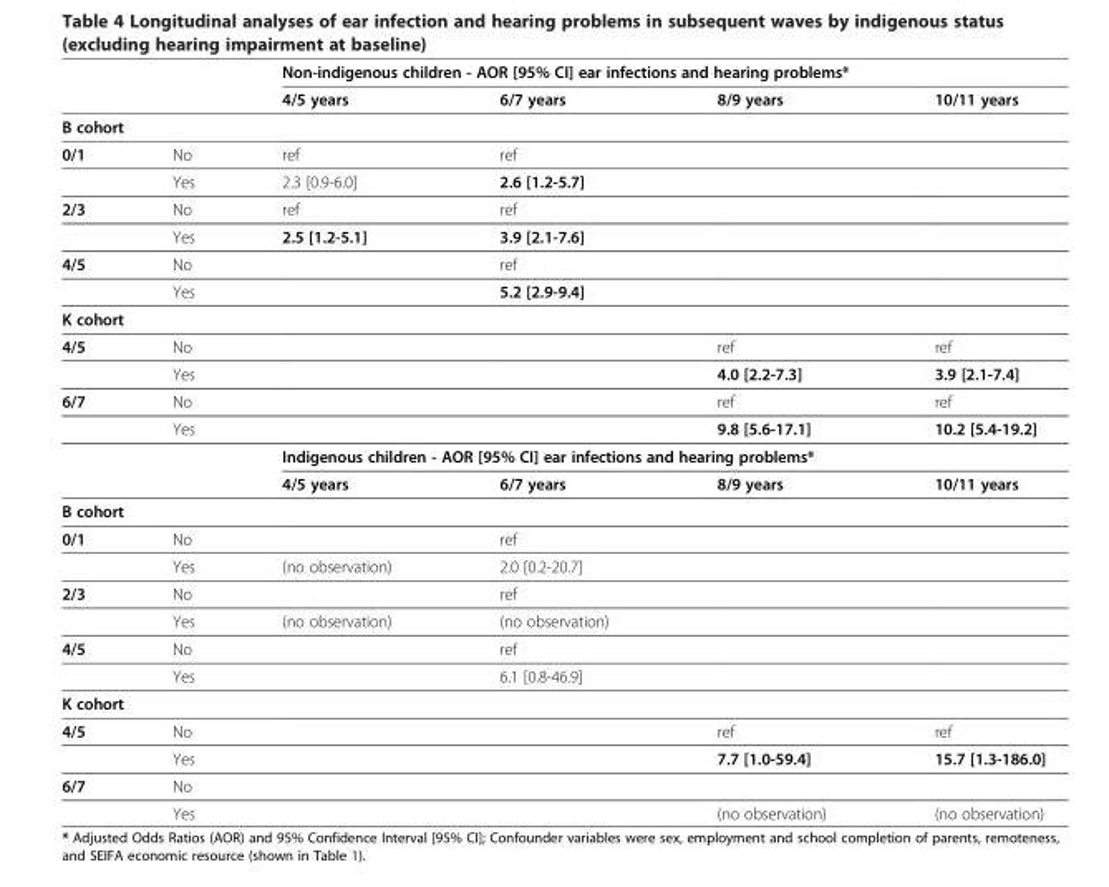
<table><thead><tr><td rowspan="2"></td><td rowspan="2"></td><td colspan="4">Non-indigenous children - AOR [95% CI] ear infections and hearing problems*</td></tr><tr><td>4/5 years</td><td>6/7 years</td><td>8/9 years</td><td>10/11 years</td></tr></thead><tbody><tr><td colspan="6">B cohort</td></tr><tr><td rowspan="2">0/1</td><td>No</td><td>ref</td><td>ref</td><td></td><td></td></tr><tr><td>Yes</td><td>2.3 [0.9-6.0]</td><td>2.6 [1.2-5.7]</td><td></td><td></td></tr><tr><td rowspan="2">2/3</td><td>No</td><td>ref</td><td>ref</td><td></td><td></td></tr><tr><td>Yes</td><td>2.5 [1.2-5.1]</td><td>3.9 [2.1-7.6]</td><td></td><td></td></tr><tr><td rowspan="2">4/5</td><td>No</td><td></td><td>ref</td><td></td><td></td></tr><tr><td>Yes</td><td></td><td>5.2 [2.9-9.4]</td><td></td><td></td></tr><tr><td colspan="6">K cohort</td></tr><tr><td rowspan="2">4/5</td><td>No</td><td></td><td></td><td>ref</td><td>ref</td></tr><tr><td>Yes</td><td></td><td></td><td>4.0 [2.2-7.3]</td><td>3.9 [2.1-7.4]</td></tr><tr><td rowspan="2">6/7</td><td>No</td><td></td><td></td><td>ref</td><td>ref</td></tr><tr><td>Yes</td><td></td><td></td><td>9.8 [5.6-17.1]</td><td>10.2 [5.4-19.2]</td></tr><tr><td rowspan="2" colspan="2"></td><td colspan="4">Indigenous children - AOR [95% CI] ear infections and hearing problems*</td></tr><tr><td>4/5 years</td><td>6/7 years</td><td>8/9 years</td><td>10/11 years</td></tr><tr><td colspan="6">B cohort</td></tr><tr><td rowspan="2">0/1</td><td>No</td><td></td><td>ref</td><td></td><td></td></tr><tr><td>Yes</td><td>(no observation)</td><td>2.0 [0.2-20.7]</td><td></td><td></td></tr><tr><td rowspan="2">2/3</td><td>No</td><td></td><td>ref</td><td></td><td></td></tr><tr><td>Yes</td><td>(no observation)</td><td>(no observation)</td><td></td><td></td></tr><tr><td rowspan="2">4/5</td><td>No</td><td></td><td>ref</td><td></td><td></td></tr><tr><td>Yes</td><td></td><td>6.1 [0.8-46.9]</td><td></td><td></td></tr><tr><td colspan="6">K cohort</td></tr><tr><td rowspan="2">4/5</td><td>No</td><td></td><td></td><td>ref</td><td>ref</td></tr><tr><td>Yes</td><td></td><td></td><td>7.7 [1.0-59.4]</td><td>15.7 [1.3-186.0]</td></tr><tr><td rowspan="2">6/7</td><td>No</td><td></td><td></td><td></td><td></td></tr><tr><td>Yes</td><td></td><td></td><td>(no observation)</td><td>(no observation)</td></tr></tbody></table>